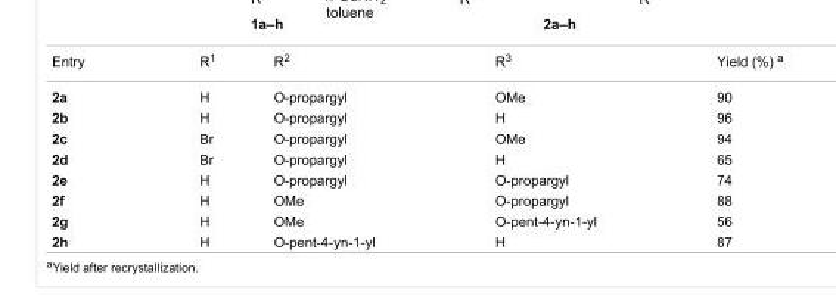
<table><tbody><tr><td>Entry</td><td>R<sup>1</sup></td><td>R<sup>2</sup></td><td>R<sup>3</sup></td><td>Yield (%) <sup>a</sup></td></tr><tr><td>2a</td><td>H</td><td>O-propargyl</td><td>OMe</td><td>90</td></tr><tr><td>2b</td><td>H</td><td>O-propargyl</td><td>H</td><td>96</td></tr><tr><td>2c</td><td>Br</td><td>O-propargyl</td><td>OMe</td><td>94</td></tr><tr><td>2d</td><td>Br</td><td>O-propargyl</td><td>H</td><td>65</td></tr><tr><td>2e</td><td>H</td><td>O-propargyl</td><td>O-propargyl</td><td>74</td></tr><tr><td>2f</td><td>H</td><td>OMe</td><td>O-propargyl</td><td>88</td></tr><tr><td>2g</td><td>H</td><td>OMe</td><td>O-pent-4-yn-1-yl</td><td>56</td></tr><tr><td>2h</td><td>H</td><td>O-pent-4-yn-1-yl</td><td>H</td><td>87</td></tr></tbody></table>